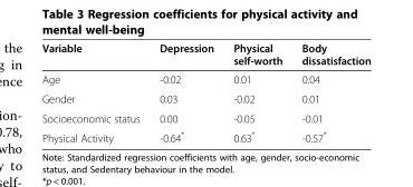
<table><thead><tr><td>Variable</td><td>Depression</td><td>Physical self-worth</td><td>Body dissatisfaction</td></tr></thead><tbody><tr><td>Age</td><td>-0.02</td><td>0.01</td><td>0.04</td></tr><tr><td>Gender</td><td>0.03</td><td>-0.02</td><td>0.01</td></tr><tr><td>Socioeconomic status</td><td>0.00</td><td>-0.05</td><td>-0.01</td></tr><tr><td>Physical Activity</td><td>-0.64*</td><td>0.63*</td><td>-0.57*</td></tr></tbody></table>